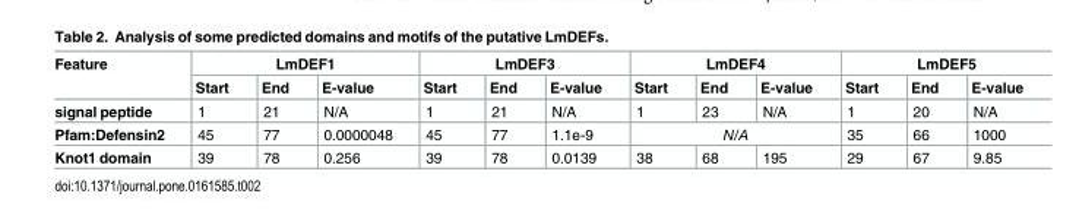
<table><thead><tr><td rowspan="2">Feature</td><td colspan="3">LmDEF1</td><td colspan="3">LmDEF3</td><td colspan="3">LmDEF4</td><td colspan="3">LmDEF5</td></tr><tr><td>Start</td><td>End</td><td>E-value</td><td>Start</td><td>End</td><td>E-value</td><td>Start</td><td>End</td><td>E-value</td><td>Start</td><td>End</td><td>E-value</td></tr></thead><tbody><tr><td>signal peptide</td><td>1</td><td>21</td><td>N/A</td><td>1</td><td>21</td><td>N/A</td><td>1</td><td>23</td><td>N/A</td><td>1</td><td>20</td><td>N/A</td></tr><tr><td>Pfam:Defensin2</td><td>45</td><td>77</td><td>0.0000048</td><td>45</td><td>77</td><td>1.1e-9</td><td colspan="3">N/A</td><td>35</td><td>66</td><td>1000</td></tr><tr><td>Knot1 domain</td><td>39</td><td>78</td><td>0.256</td><td>39</td><td>78</td><td>0.0139</td><td>38</td><td>68</td><td>195</td><td>29</td><td>67</td><td>9.85</td></tr></tbody></table>